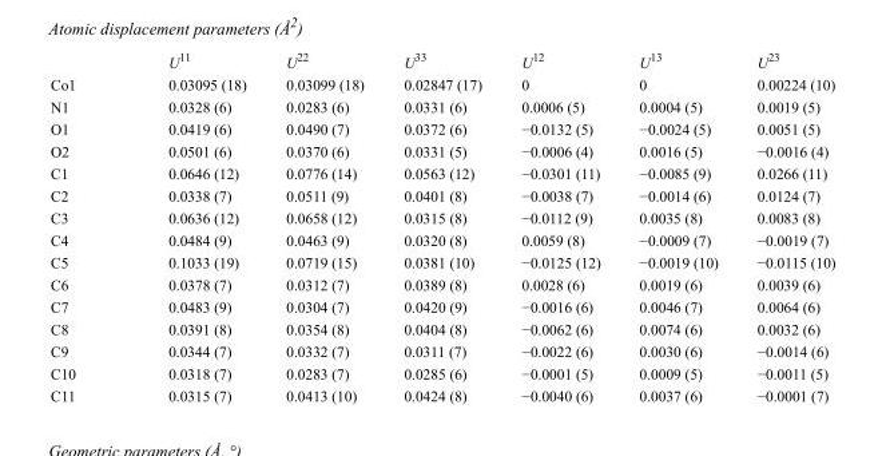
<table><thead><tr><td></td><td>U<sup>11</sup></td><td>U<sup>22</sup></td><td>U<sup>33</sup></td><td>U<sup>12</sup></td><td>U<sup>13</sup></td><td>U<sup>23</sup></td></tr></thead><tbody><tr><td>Co1</td><td>0.03095 (18)</td><td>0.03099 (18)</td><td>0.02847 (17)</td><td>0</td><td>0</td><td>0.00224 (10)</td></tr><tr><td>N1</td><td>0.0328 (6)</td><td>0.0283 (6)</td><td>0.0331 (6)</td><td>0.0006 (5)</td><td>0.0004 (5)</td><td>0.0019 (5)</td></tr><tr><td>O1</td><td>0.0419 (6)</td><td>0.0490 (7)</td><td>0.0372 (6)</td><td>−0.0132 (5)</td><td>−0.0024 (5)</td><td>0.0051 (5)</td></tr><tr><td>O2</td><td>0.0501 (6)</td><td>0.0370 (6)</td><td>0.0331 (5)</td><td>−0.0006 (4)</td><td>0.0016 (5)</td><td>−0.0016 (4)</td></tr><tr><td>C1</td><td>0.0646 (12)</td><td>0.0776 (14)</td><td>0.0563 (12)</td><td>−0.0301 (11)</td><td>−0.0085 (9)</td><td>0.0266 (11)</td></tr><tr><td>C2</td><td>0.0338 (7)</td><td>0.0511 (9)</td><td>0.0401 (8)</td><td>−0.0038 (7)</td><td>−0.0014 (6)</td><td>0.0124 (7)</td></tr><tr><td>C3</td><td>0.0636 (12)</td><td>0.0658 (12)</td><td>0.0315 (8)</td><td>−0.0112 (9)</td><td>0.0035 (8)</td><td>0.0083 (8)</td></tr><tr><td>C4</td><td>0.0484 (9)</td><td>0.0463 (9)</td><td>0.0320 (8)</td><td>0.0059 (8)</td><td>−0.0009 (7)</td><td>−0.0019 (7)</td></tr><tr><td>C5</td><td>0.1033 (19)</td><td>0.0719 (15)</td><td>0.0381 (10)</td><td>−0.0125 (12)</td><td>−0.0019 (10)</td><td>−0.0115 (10)</td></tr><tr><td>C6</td><td>0.0378 (7)</td><td>0.0312 (7)</td><td>0.0389 (8)</td><td>0.0028 (6)</td><td>0.0019 (6)</td><td>0.0039 (6)</td></tr><tr><td>C7</td><td>0.0483 (9)</td><td>0.0304 (7)</td><td>0.0420 (9)</td><td>−0.0016 (6)</td><td>0.0046 (7)</td><td>0.0064 (6)</td></tr><tr><td>C8</td><td>0.0391 (8)</td><td>0.0354 (8)</td><td>0.0404 (8)</td><td>−0.0062 (6)</td><td>0.0074 (6)</td><td>0.0032 (6)</td></tr><tr><td>C9</td><td>0.0344 (7)</td><td>0.0332 (7)</td><td>0.0311 (7)</td><td>−0.0022 (6)</td><td>0.0030 (6)</td><td>−0.0014 (6)</td></tr><tr><td>C10</td><td>0.0318 (7)</td><td>0.0283 (7)</td><td>0.0285 (6)</td><td>−0.0001 (5)</td><td>0.0009 (5)</td><td>−0.0011 (5)</td></tr><tr><td>C11</td><td>0.0315 (7)</td><td>0.0413 (10)</td><td>0.0424 (8)</td><td>−0.0040 (6)</td><td>0.0037 (6)</td><td>−0.0001 (7)</td></tr></tbody></table>